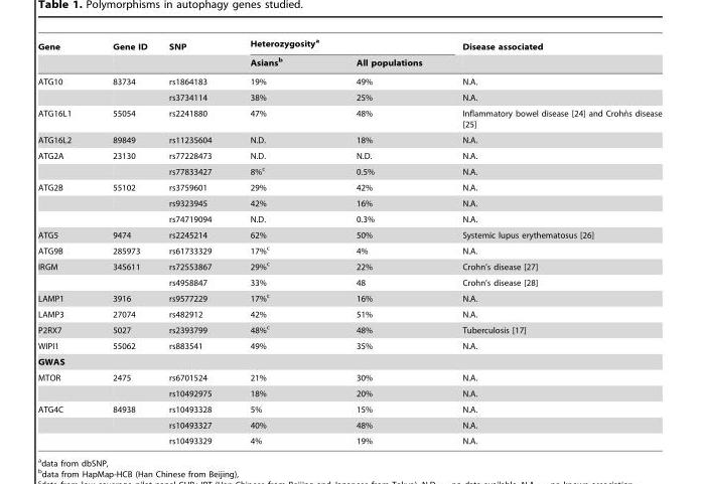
<table><thead><tr><td rowspan="2">Gene</td><td rowspan="2">Gene ID</td><td rowspan="2">SNP</td><td colspan="2">Heterozygosity<sup>a</sup></td><td rowspan="2">Disease associated</td></tr><tr><td>Asians<sup>b</sup></td><td>All populations</td></tr></thead><tbody><tr><td rowspan="2">ATG10</td><td>83734</td><td>rs1864183</td><td>19%</td><td>49%</td><td>N.A.</td></tr><tr><td></td><td>rs3734114</td><td>38%</td><td>25%</td><td>N.A.</td></tr><tr><td>ATG16L1</td><td>55054</td><td>rs2241880</td><td>47%</td><td>48%</td><td>Inflammatory bowel disease [24] and Crohn`s disease [25]</td></tr><tr><td>ATG16L2</td><td>89849</td><td>rs11235604</td><td>N.D.</td><td>18%</td><td>N.A.</td></tr><tr><td rowspan="2">ATG2A</td><td>23130</td><td>rs77228473</td><td>N.D.</td><td>N.D.</td><td>N.A.</td></tr><tr><td></td><td>rs77833427</td><td>8%<sup>c</sup></td><td>0.5%</td><td>N.A.</td></tr><tr><td rowspan="3">ATG2B</td><td>55102</td><td>rs3759601</td><td>29%</td><td>42%</td><td>N.A.</td></tr><tr><td></td><td>rs9323945</td><td>42%</td><td>16%</td><td>N.A.</td></tr><tr><td></td><td>rs74719094</td><td>N.D.</td><td>0.3%</td><td>N.A.</td></tr><tr><td>ATG5</td><td>9474</td><td>rs2245214</td><td>62%</td><td>50%</td><td>Systemic lupus erythematosus [26]</td></tr><tr><td>ATG9B</td><td>285973</td><td>rs61733329</td><td>17%<sup>c</sup></td><td>4%</td><td>N.A.</td></tr><tr><td rowspan="2">IRGM</td><td>345611</td><td>rs72553867</td><td>29%<sup>c</sup></td><td>22%</td><td>Crohn’s disease [27]</td></tr><tr><td></td><td>rs4958847</td><td>33%</td><td>48</td><td>Crohn’s disease [28]</td></tr><tr><td>LAMP1</td><td>3916</td><td>rs9577229</td><td>17%<sup>c</sup></td><td>16%</td><td>N.A.</td></tr><tr><td>LAMP3</td><td>27074</td><td>rs482912</td><td>42%</td><td>51%</td><td>N.A.</td></tr><tr><td>P2RX7</td><td>5027</td><td>rs2393799</td><td>48%<sup>c</sup></td><td>48%</td><td>Tuberculosis [17]</td></tr><tr><td>WIPI1</td><td>55062</td><td>rs883541</td><td>49%</td><td>35%</td><td>N.A.</td></tr><tr><td colspan="6">GWAS</td></tr><tr><td rowspan="2">MTOR</td><td>2475</td><td>rs6701524</td><td>21%</td><td>30%</td><td>N.A.</td></tr><tr><td></td><td>rs10492975</td><td>18%</td><td>20%</td><td>N.A.</td></tr><tr><td rowspan="3">ATG4C</td><td>84938</td><td>rs10493328</td><td>5%</td><td>15%</td><td>N.A.</td></tr><tr><td></td><td>rs10493327</td><td>40%</td><td>48%</td><td>N.A.</td></tr><tr><td></td><td>rs10493329</td><td>4%</td><td>19%</td><td>N.A.</td></tr></tbody></table>